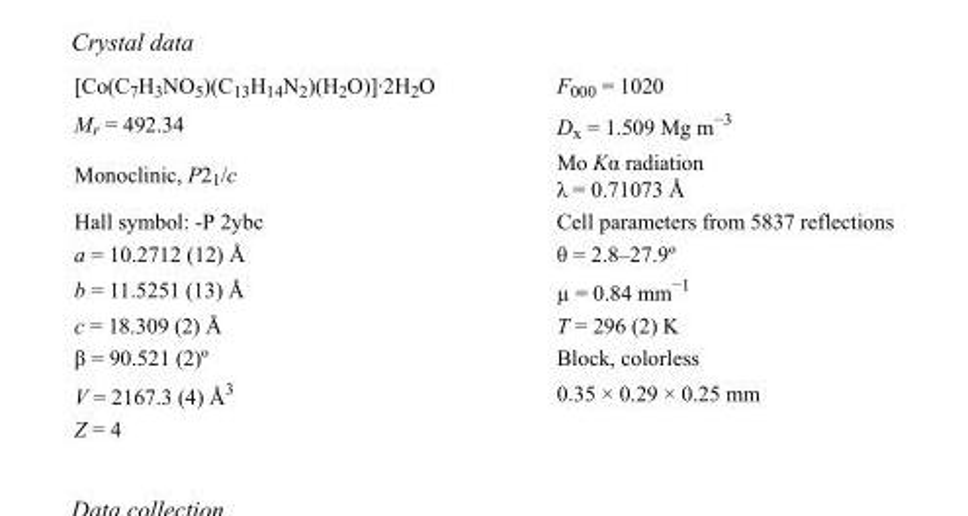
<table><tbody><tr><td>[Co(C<sub>7</sub>H<sub>3</sub>NO<sub>5</sub>)(C<sub>13</sub>H<sub>14</sub>N<sub>2</sub>)(H<sub>2</sub>O)]·2H<sub>2</sub>O</td><td>F000 = 1020</td></tr><tr><td>M<sub>r</sub> = 492.34</td><td>D<sub>x</sub> = 1.509 Mg m<sup>−3</sup></td></tr><tr><td>Monoclinic, P2<sub>1</sub>/c</td><td>Mo Kα radiation λ = 0.71073 Å</td></tr><tr><td>Hall symbol: -P 2ybc</td><td>Cell parameters from 5837 reflections</td></tr><tr><td>a = 10.2712 (12) Å</td><td>θ = 2.8–27.9º</td></tr><tr><td>b = 11.5251 (13) Å</td><td>µ = 0.84 mm<sup>−1</sup></td></tr><tr><td>c = 18.309 (2) Å</td><td>T = 296 (2) K</td></tr><tr><td>β = 90.521 (2)º</td><td>Block, colorless</td></tr><tr><td>V = 2167.3 (4) Å<sup>3</sup></td><td>0.35 × 0.29 × 0.25 mm</td></tr><tr><td>Z = 4</td><td></td></tr></tbody></table>